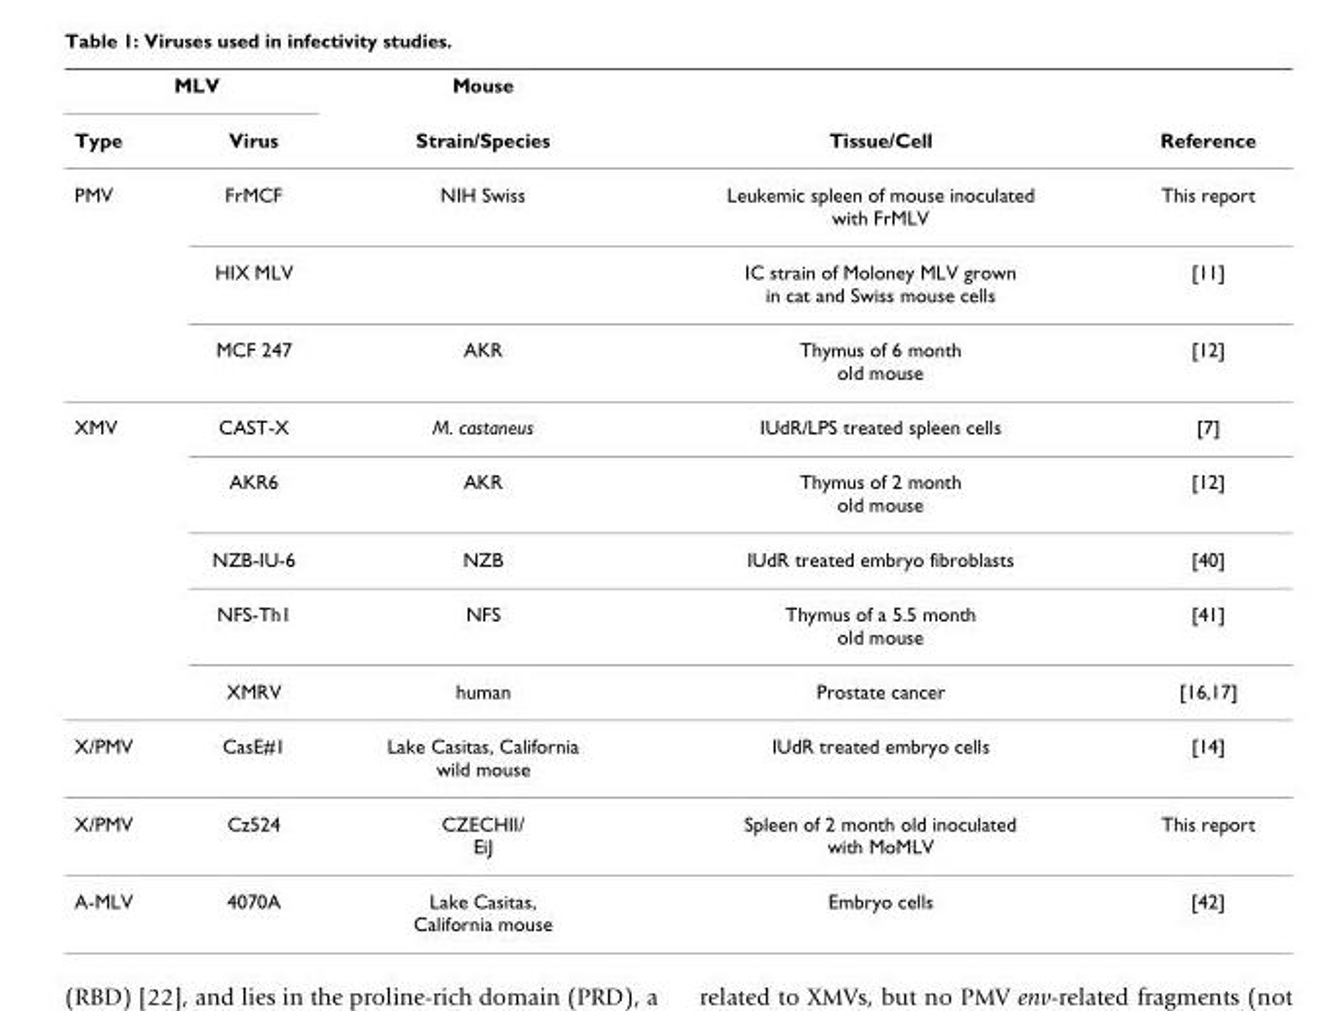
<table><thead><tr><td colspan="2">MLV</td><td rowspan="2">Mouse Strain/Species</td><td rowspan="2">Tissue/Cell</td><td rowspan="2">Reference</td></tr><tr><td>Type</td><td>Virus</td></tr></thead><tbody><tr><td rowspan="3">PMV</td><td>FrMCF</td><td>NIH Swiss</td><td>Leukemic spleen of mouse inoculated with FrMLV</td><td>This report</td></tr><tr><td>HIX MLV</td><td></td><td>IC strain of Moloney MLV grown in cat and Swiss mouse cells</td><td>[11]</td></tr><tr><td>MCF 247</td><td>AKR</td><td>Thymus of 6 month old mouse</td><td>[12]</td></tr><tr><td rowspan="5">XMV</td><td>CAST-X</td><td>M. castaneus</td><td>IUdR/LPS treated spleen cells</td><td>[7]</td></tr><tr><td>AKR6</td><td>AKR</td><td>Thymus of 2 month old mouse</td><td>[12]</td></tr><tr><td>NZB-IU-6</td><td>NZB</td><td>IUdR treated embryo fibroblasts</td><td>[40]</td></tr><tr><td>NFS-Th1</td><td>NFS</td><td>Thymus of a 5.5 month old mouse</td><td>[41]</td></tr><tr><td>XMRV</td><td>human</td><td>Prostate cancer</td><td>[16,17]</td></tr><tr><td>X/PMV</td><td>CasE#1</td><td>Lake Casitas, California wild mouse</td><td>IUdR treated embryo cells</td><td>[14]</td></tr><tr><td>X/PMV</td><td>Cz524</td><td>CZECHII/ EiJ</td><td>Spleen of 2 month old inoculated with MoMLV</td><td>This report</td></tr><tr><td>A-MLV</td><td>4070A</td><td>Lake Casitas, California mouse</td><td>Embryo cells</td><td>[42]</td></tr></tbody></table>